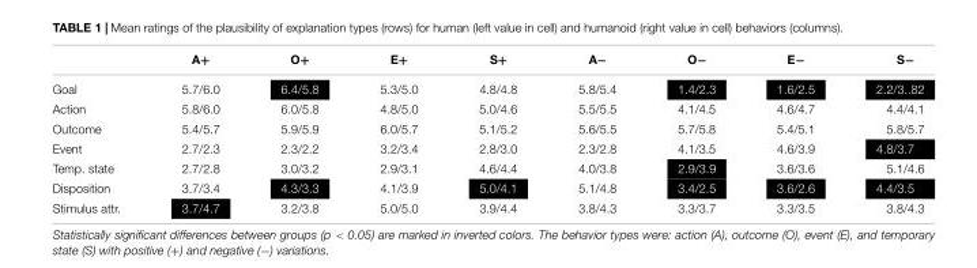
<table><thead><tr><td></td><td>A+</td><td>O+</td><td>E+</td><td>S+</td><td>A−</td><td>O−</td><td>E−</td><td>S−</td></tr></thead><tbody><tr><td>Goal</td><td>5.7/6.0</td><td>6.4/5.8</td><td>5.3/5.0</td><td>4.8/4.8</td><td>5.8/5.4</td><td>1.4/2.3</td><td>1.6/2.5</td><td>2.2/3..82</td></tr><tr><td>Action</td><td>5.8/6.0</td><td>6.0/5.8</td><td>4.8/5.0</td><td>5.0/4.6</td><td>5.5/5.5</td><td>4.1/4.5</td><td>4.6/4.7</td><td>4.4/4.1</td></tr><tr><td>Outcome</td><td>5.4/5.7</td><td>5.9/5.9</td><td>6.0/5.7</td><td>5.1/5.2</td><td>5.6/5.5</td><td>5.7/5.8</td><td>5.4/5.1</td><td>5.8/5.7</td></tr><tr><td>Event</td><td>2.7/2.3</td><td>2.3/2.2</td><td>3.2/3.4</td><td>2.8/3.0</td><td>2.3/2.8</td><td>4.1/3.5</td><td>4.6/3.9</td><td>4.8/3.7</td></tr><tr><td>Temp. state</td><td>2.7/2.8</td><td>3.0/3.2</td><td>2.9/3.1</td><td>4.6/4.4</td><td>4.0/3.8</td><td>2.9/3.9</td><td>3.6/3.6</td><td>5.1/4.6</td></tr><tr><td>Disposition</td><td>3.7/3.4</td><td>4.3/3.3</td><td>4.1/3.9</td><td>5.0/4.1</td><td>5.1/4.8</td><td>3.4/2.5</td><td>3.6/2.6</td><td>4.4/3.5</td></tr><tr><td>Stimulus attr.</td><td>3.7/4.7</td><td>3.2/3.8</td><td>5.0/5.0</td><td>3.9/4.4</td><td>3.8/4.3</td><td>3.3/3.7</td><td>3.3/3.5</td><td>3.8/4.3</td></tr></tbody></table>